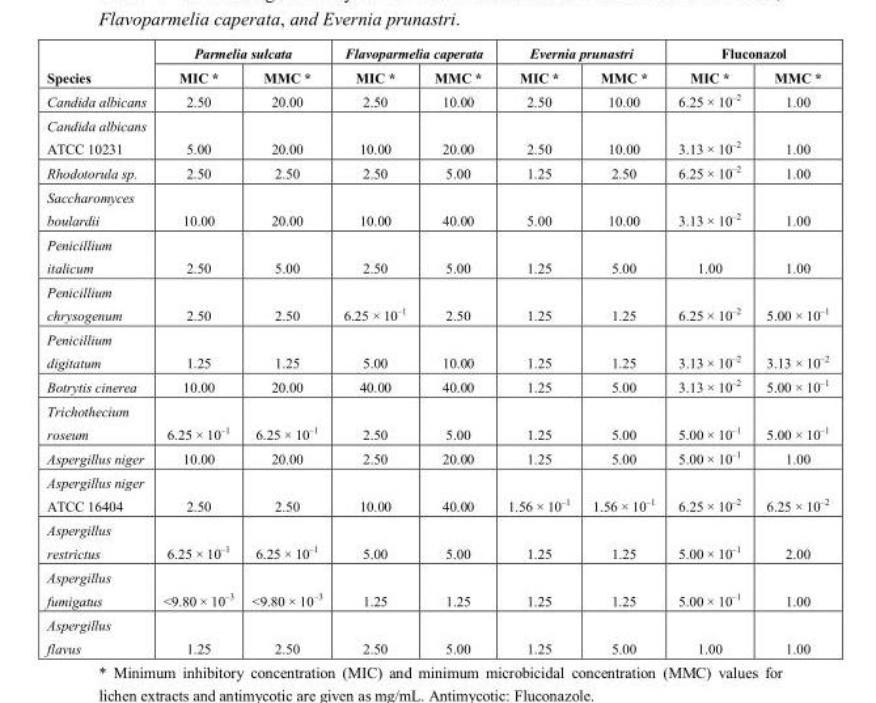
<table><thead><tr><td rowspan="2">Species</td><td colspan="2">Parmelia sulcata</td><td colspan="2">Flavoparmelia caperata</td><td colspan="2">Evernia prunastri</td><td colspan="2">Fluconazol</td></tr><tr><td>MIC *</td><td>MMC *</td><td>MIC *</td><td>MMC *</td><td>MIC *</td><td>MMC *</td><td>MIC *</td><td>MMC *</td></tr></thead><tbody><tr><td>Candida albicans</td><td>2.50</td><td>20.00</td><td>2.50</td><td>10.00</td><td>2.50</td><td>10.00</td><td>6.25 × 10–<sup>2</sup></td><td>1.00</td></tr><tr><td>Candida albicans ATCC 10231</td><td>5.00</td><td>20.00</td><td>10.00</td><td>20.00</td><td>2.50</td><td>10.00</td><td>3.13 × 10–<sup>2</sup></td><td>1.00</td></tr><tr><td>Rhodotorula sp.</td><td>2.50</td><td>2.50</td><td>2.50</td><td>5.00</td><td>1.25</td><td>2.50</td><td>6.25 × 10–<sup>2</sup></td><td>1.00</td></tr><tr><td>Saccharomyces boulardii</td><td>10.00</td><td>20.00</td><td>10.00</td><td>40.00</td><td>5.00</td><td>10.00</td><td>3.13 × 10–<sup>2</sup></td><td>1.00</td></tr><tr><td>Penicillium italicum</td><td>2.50</td><td>5.00</td><td>2.50</td><td>5.00</td><td>1.25</td><td>5.00</td><td>1.00</td><td>1.00</td></tr><tr><td>Penicillium chrysogenum</td><td>2.50</td><td>2.50</td><td>6.25 × 10–<sup>1</sup></td><td>2.50</td><td>1.25</td><td>1.25</td><td>6.25 × 10–<sup>2</sup></td><td>5.00 × 10–<sup>1</sup></td></tr><tr><td>Penicillium digitatum</td><td>1.25</td><td>1.25</td><td>5.00</td><td>10.00</td><td>1.25</td><td>1.25</td><td>3.13 × 10–<sup>2</sup></td><td>3.13 × 10–<sup>2</sup></td></tr><tr><td>Botrytis cinerea</td><td>10.00</td><td>20.00</td><td>40.00</td><td>40.00</td><td>1.25</td><td>5.00</td><td>3.13 × 10–<sup>2</sup></td><td>5.00 × 10–<sup>1</sup></td></tr><tr><td>Trichothecium roseum</td><td>6.25 × 10–<sup>1</sup></td><td>6.25 × 10–<sup>1</sup></td><td>2.50</td><td>5.00</td><td>1.25</td><td>5.00</td><td>5.00 × 10–<sup>1</sup></td><td>5.00 × 10–<sup>1</sup></td></tr><tr><td>Aspergillus niger</td><td>10.00</td><td>20.00</td><td>2.50</td><td>20.00</td><td>1.25</td><td>5.00</td><td>5.00 × 10–<sup>1</sup></td><td>1.00</td></tr><tr><td>Aspergillus niger ATCC 16404</td><td>2.50</td><td>2.50</td><td>10.00</td><td>40.00</td><td>1.56 × 10–<sup>1</sup></td><td>1.56 × 10–<sup>1</sup></td><td>6.25 × 10–<sup>2</sup></td><td>6.25 × 10–<sup>2</sup></td></tr><tr><td>Aspergillus restrictus</td><td>6.25 × 10–<sup>1</sup></td><td>6.25 × 10–<sup>1</sup></td><td>5.00</td><td>5.00</td><td>1.25</td><td>1.25</td><td>5.00 × 10–<sup>1</sup></td><td>2.00</td></tr><tr><td>Aspergillus fumigatus</td><td>&lt;9.80 × 10–<sup>3</sup></td><td>&lt;9.80 × 10–<sup>3</sup></td><td>1.25</td><td>1.25</td><td>1.25</td><td>1.25</td><td>5.00 × 10–<sup>1</sup></td><td>1.00</td></tr><tr><td>Aspergillus flavus</td><td>1.25</td><td>2.50</td><td>2.50</td><td>5.00</td><td>1.25</td><td>5.00</td><td>1.00</td><td>1.00</td></tr></tbody></table>